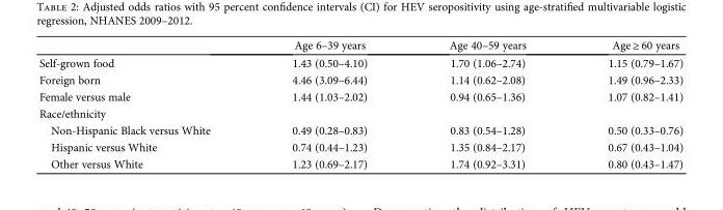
<table><thead><tr><td></td><td>Age 6–39 years</td><td>Age 40–59 years</td><td>Age ≥ 60 years</td></tr></thead><tbody><tr><td>Self-grown food</td><td>1.43 (0.50–4.10)</td><td>1.70 (1.06–2.74)</td><td>1.15 (0.79–1.67)</td></tr><tr><td>Foreign born</td><td>4.46 (3.09–6.44)</td><td>1.14 (0.62–2.08)</td><td>1.49 (0.96–2.33)</td></tr><tr><td>Female versus male</td><td>1.44 (1.03–2.02)</td><td>0.94 (0.65–1.36)</td><td>1.07 (0.82–1.41)</td></tr><tr><td colspan="4">Race/ethnicity</td></tr><tr><td>Non-Hispanic Black versus White</td><td>0.49 (0.28–0.83)</td><td>0.83 (0.54–1.28)</td><td>0.50 (0.33–0.76)</td></tr><tr><td>Hispanic versus White</td><td>0.74 (0.44–1.23)</td><td>1.35 (0.84–2.17)</td><td>0.67 (0.43–1.04)</td></tr><tr><td>Other versus White</td><td>1.23 (0.69–2.17)</td><td>1.74 (0.92–3.31)</td><td>0.80 (0.43–1.47)</td></tr></tbody></table>